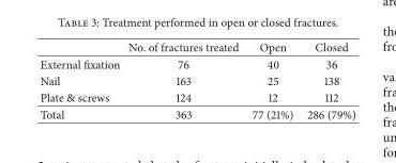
<table><thead><tr><td></td><td>No. of fractures treated</td><td>Open</td><td>Closed</td></tr></thead><tbody><tr><td>External fixation</td><td>76</td><td>40</td><td>36</td></tr><tr><td>Nail</td><td>163</td><td>25</td><td>138</td></tr><tr><td>Plate &amp; screws</td><td>124</td><td>12</td><td>112</td></tr><tr><td>Total</td><td>363</td><td>77 (21%)</td><td>286 (79%)</td></tr></tbody></table>